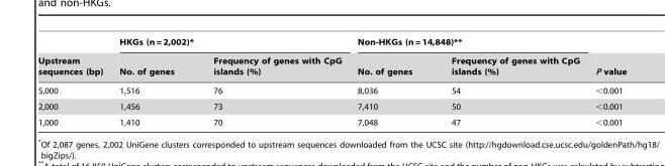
<table><thead><tr><td rowspan="2">Upstream sequences (bp)</td><td colspan="2">HKGs (n = 2,002)*</td><td colspan="2">Non-HKGs (n = 14,848)**</td><td rowspan="2">P value</td></tr><tr><td>No. of genes</td><td>Frequency of genes with CpG islands (%)</td><td>No. of genes</td><td>Frequency of genes with CpG islands (%)</td></tr></thead><tbody><tr><td>5,000</td><td>1,516</td><td>76</td><td>8,036</td><td>54</td><td>&lt;0.001</td></tr><tr><td>2,000</td><td>1,456</td><td>73</td><td>7,410</td><td>50</td><td>&lt;0.001</td></tr><tr><td>1,000</td><td>1,410</td><td>70</td><td>7,048</td><td>47</td><td>&lt;0.001</td></tr></tbody></table>